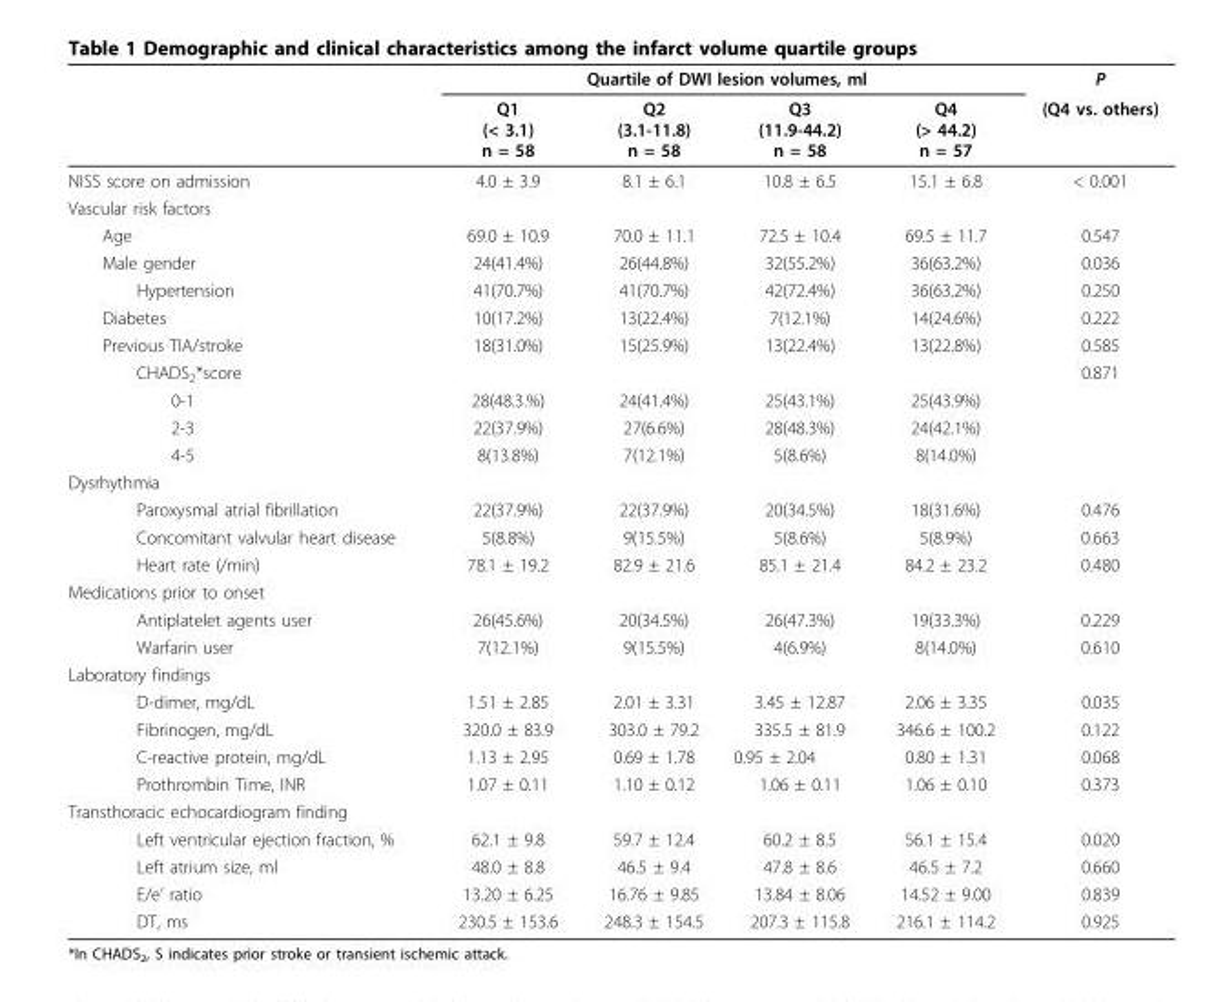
<table><thead><tr><td rowspan="2"></td><td colspan="4">Quartile of DWI lesion volumes, ml</td><td rowspan="2">P (Q4 vs. others)</td></tr><tr><td>Q1 (&lt; 3.1) n = 58</td><td>Q2 (3.1-11.8) n = 58</td><td>Q3 (11.9-44.2) n = 58</td><td>Q4 (&gt; 44.2) n = 57</td></tr></thead><tbody><tr><td>NISS score on admission</td><td>4.0 ± 3.9</td><td>8.1 ± 6.1</td><td>10.8 ± 6.5</td><td>15.1 ± 6.8</td><td>&lt; 0.001</td></tr><tr><td colspan="6">Vascular risk factors</td></tr><tr><td>Age</td><td>69.0 ± 10.9</td><td>70.0 ± 11.1</td><td>72.5 ± 10.4</td><td>69.5 ± 11.7</td><td>0.547</td></tr><tr><td>Male gender</td><td>24(41.4%)</td><td>26(44.8%)</td><td>32(55.2%)</td><td>36(63.2%)</td><td>0.036</td></tr><tr><td>Hypertension</td><td>41(70.7%)</td><td>41(70.7%)</td><td>42(72.4%)</td><td>36(63.2%)</td><td>0.250</td></tr><tr><td>Diabetes</td><td>10(17.2%)</td><td>13(22.4%)</td><td>7(12.1%)</td><td>14(24.6%)</td><td>0.222</td></tr><tr><td>Previous TIA/stroke</td><td>18(31.0%)</td><td>15(25.9%)</td><td>13(22.4%)</td><td>13(22.8%)</td><td>0.585</td></tr><tr><td>CHADS<sub>2</sub>*score</td><td></td><td></td><td></td><td></td><td>0.871</td></tr><tr><td>0-1</td><td>28(48.3.%)</td><td>24(41.4%)</td><td>25(43.1%)</td><td>25(43.9%)</td><td></td></tr><tr><td>2-3</td><td>22(37.9%)</td><td>27(6.6%)</td><td>28(48.3%)</td><td>24(42.1%)</td><td></td></tr><tr><td>4-5</td><td>8(13.8%)</td><td>7(12.1%)</td><td>5(8.6%)</td><td>8(14.0%)</td><td></td></tr><tr><td colspan="6">Dysrhythmia</td></tr><tr><td>Paroxysmal atrial fibrillation</td><td>22(37.9%)</td><td>22(37.9%)</td><td>20(34.5%)</td><td>18(31.6%)</td><td>0.476</td></tr><tr><td>Concomitant valvular heart disease</td><td>5(8.8%)</td><td>9(15.5%)</td><td>5(8.6%)</td><td>5(8.9%)</td><td>0.663</td></tr><tr><td>Heart rate (/min)</td><td>78.1 ± 19.2</td><td>82.9 ± 21.6</td><td>85.1 ± 21.4</td><td>84.2 ± 23.2</td><td>0.480</td></tr><tr><td colspan="6">Medications prior to onset</td></tr><tr><td>Antiplatelet agents user</td><td>26(45.6%)</td><td>20(34.5%)</td><td>26(47.3%)</td><td>19(33.3%)</td><td>0.229</td></tr><tr><td>Warfarin user</td><td>7(12.1%)</td><td>9(15.5%)</td><td>4(6.9%)</td><td>8(14.0%)</td><td>0.610</td></tr><tr><td colspan="6">Laboratory findings</td></tr><tr><td>D-dimer, mg/dL</td><td>1.51 ± 2.85</td><td>2.01 ± 3.31</td><td>3.45 ± 12.87</td><td>2.06 ± 3.35</td><td>0.035</td></tr><tr><td>Fibrinogen, mg/dL</td><td>320.0 ± 83.9</td><td>303.0 ± 79.2</td><td>335.5 ± 81.9</td><td>346.6 ± 100.2</td><td>0.122</td></tr><tr><td>C-reactive protein, mg/dL</td><td>1.13 ± 2.95</td><td>0.69 ± 1.78</td><td>0.95 ± 2.04</td><td>0.80 ± 1.31</td><td>0.068</td></tr><tr><td>Prothrombin Time, INR</td><td>1.07 ± 0.11</td><td>1.10 ± 0.12</td><td>1.06 ± 0.11</td><td>1.06 ± 0.10</td><td>0.373</td></tr><tr><td colspan="6">Transthoracic echocardiogram finding</td></tr><tr><td>Left ventricular ejection fraction, %</td><td>62.1 ± 9.8</td><td>59.7 ± 12.4</td><td>60.2 ± 8.5</td><td>56.1 ± 15.4</td><td>0.020</td></tr><tr><td>Left atrium size, ml</td><td>48.0 ± 8.8</td><td>46.5 ± 9.4</td><td>47.8 ± 8.6</td><td>46.5 ± 7.2</td><td>0.660</td></tr><tr><td>E/e’ ratio</td><td>13.20 ± 6.25</td><td>16.76 ± 9.85</td><td>13.84 ± 8.06</td><td>14.52 ± 9.00</td><td>0.839</td></tr><tr><td>DT, ms</td><td>230.5 ± 153.6</td><td>248.3 ± 154.5</td><td>207.3 ± 115.8</td><td>216.1 ± 114.2</td><td>0.925</td></tr></tbody></table>